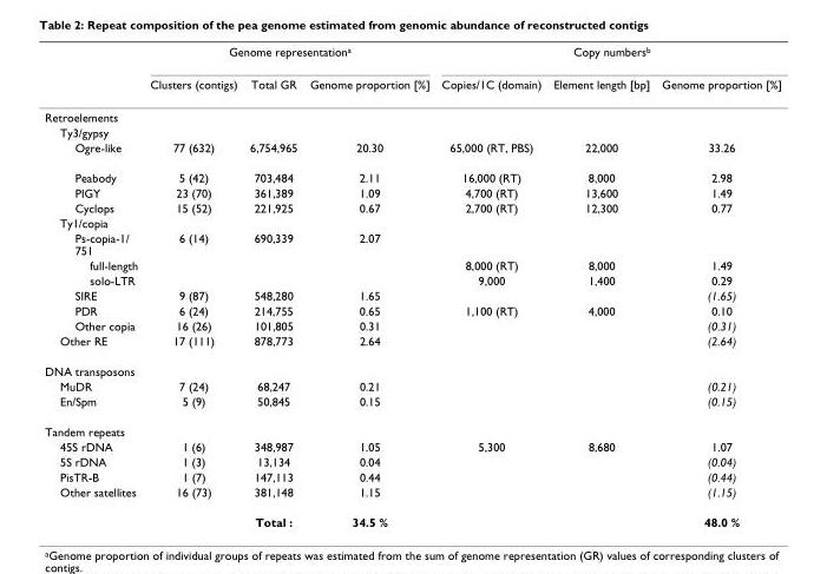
<table><thead><tr><td rowspan="2"></td><td colspan="3">Genome representation<sup>a</sup></td><td colspan="3">Copy numbers<sup>b</sup></td></tr><tr><td>Clusters (contigs)</td><td>Total GR</td><td>Genome proportion [%]</td><td>Copies/1C (domain)</td><td>Element length [bp]</td><td>Genome proportion [%]</td></tr></thead><tbody><tr><td colspan="7">Retroelements</td></tr><tr><td colspan="7">Ty3/gypsy</td></tr><tr><td>Ogre-like</td><td>77 (632)</td><td>6,754,965</td><td>20.30</td><td>65,000 (RT, PBS)</td><td>22,000</td><td>33.26</td></tr><tr><td>Peabody</td><td>5 (42)</td><td>703,484</td><td>2.11</td><td>16,000 (RT)</td><td>8,000</td><td>2.98</td></tr><tr><td>PIGY</td><td>23 (70)</td><td>361,389</td><td>1.09</td><td>4,700 (RT)</td><td>13,600</td><td>1.49</td></tr><tr><td>Cyclops</td><td>15 (52)</td><td>221,925</td><td>0.67</td><td>2,700 (RT)</td><td>12,300</td><td>0.77</td></tr><tr><td colspan="7">Ty1/copia</td></tr><tr><td>Ps-copia-1/ 751</td><td>6 (14)</td><td>690,339</td><td>2.07</td><td></td><td></td><td></td></tr><tr><td>full-length</td><td></td><td></td><td></td><td>8,000 (RT)</td><td>8,000</td><td>1.49</td></tr><tr><td>solo-LTR</td><td></td><td></td><td></td><td>9,000</td><td>1,400</td><td>0.29</td></tr><tr><td>SIRE</td><td>9 (87)</td><td>548,280</td><td>1.65</td><td></td><td></td><td>(1.65)</td></tr><tr><td>PDR</td><td>6 (24)</td><td>214,755</td><td>0.65</td><td>1,100 (RT)</td><td>4,000</td><td>0.10</td></tr><tr><td>Other copia</td><td>16 (26)</td><td>101,805</td><td>0.31</td><td></td><td></td><td>(0.31)</td></tr><tr><td>Other RE</td><td>17 (111)</td><td>878,773</td><td>2.64</td><td></td><td></td><td>(2.64)</td></tr><tr><td colspan="7">DNA transposons</td></tr><tr><td>MuDR</td><td>7 (24)</td><td>68,247</td><td>0.21</td><td></td><td></td><td>(0.21)</td></tr><tr><td>En/Spm</td><td>5 (9)</td><td>50,845</td><td>0.15</td><td></td><td></td><td>(0.15)</td></tr><tr><td colspan="7">Tandem repeats</td></tr><tr><td>45S rDNA</td><td>1 (6)</td><td>348,987</td><td>1.05</td><td>5,300</td><td>8,680</td><td>1.07</td></tr><tr><td>5S rDNA</td><td>1 (3)</td><td>13,134</td><td>0.04</td><td></td><td></td><td>(0.04)</td></tr><tr><td>PisTR-B</td><td>1 (7)</td><td>147,113</td><td>0.44</td><td></td><td></td><td>(0.44)</td></tr><tr><td rowspan="2">Other satellites</td><td>16 (73)</td><td>381,148</td><td>1.15</td><td></td><td></td><td>(1.15)</td></tr><tr><td></td><td>Total :</td><td>34.5 %</td><td></td><td></td><td>48.0 %</td></tr></tbody></table>